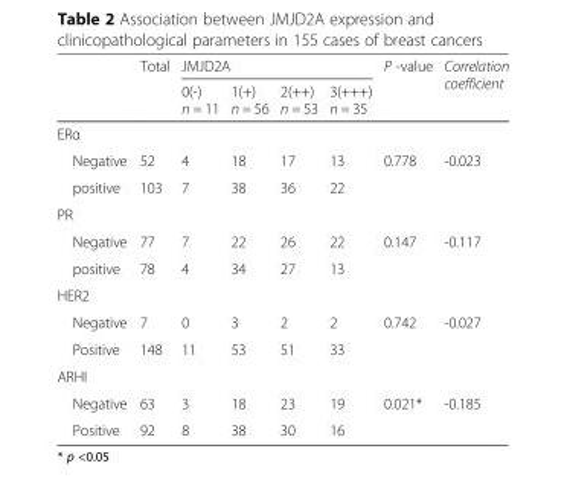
<table><thead><tr><td rowspan="2"></td><td rowspan="2">Total</td><td colspan="4">JMJD2A</td><td rowspan="2">P -value</td><td rowspan="2">Correlation coefficient</td></tr><tr><td>0(-) n = 11</td><td>1(+) n = 56</td><td>2(++) n = 53</td><td>3(+++) n = 35</td></tr></thead><tbody><tr><td colspan="8">ERα</td></tr><tr><td>Negative</td><td>52</td><td>4</td><td>18</td><td>17</td><td>13</td><td rowspan="2">0.778</td><td rowspan="2">-0.023</td></tr><tr><td>positive</td><td>103</td><td>7</td><td>38</td><td>36</td><td>22</td></tr><tr><td colspan="8">PR</td></tr><tr><td>Negative</td><td>77</td><td>7</td><td>22</td><td>26</td><td>22</td><td rowspan="2">0.147</td><td rowspan="2">-0.117</td></tr><tr><td>positive</td><td>78</td><td>4</td><td>34</td><td>27</td><td>13</td></tr><tr><td colspan="8">HER2</td></tr><tr><td>Negative</td><td>7</td><td>0</td><td>3</td><td>2</td><td>2</td><td rowspan="2">0.742</td><td rowspan="2">-0.027</td></tr><tr><td>Positive</td><td>148</td><td>11</td><td>53</td><td>51</td><td>33</td></tr><tr><td colspan="8">ARHI</td></tr><tr><td>Negative</td><td>63</td><td>3</td><td>18</td><td>23</td><td>19</td><td rowspan="2">0.021*</td><td rowspan="2">-0.185</td></tr><tr><td>Positive</td><td>92</td><td>8</td><td>38</td><td>30</td><td>16</td></tr></tbody></table>